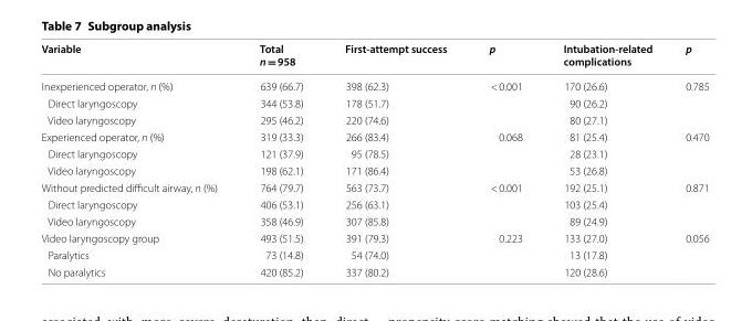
<table><thead><tr><td>Variable</td><td>Total n = 958</td><td>First-attempt success</td><td>p</td><td>Intubation-related complications</td><td>p</td></tr></thead><tbody><tr><td>Inexperienced operator, n (%)</td><td>639 (66.7)</td><td>398 (62.3)</td><td>&lt; 0.001</td><td>170 (26.6)</td><td>0.785</td></tr><tr><td>Direct laryngoscopy</td><td>344 (53.8)</td><td>178 (51.7)</td><td></td><td>90 (26.2)</td><td></td></tr><tr><td>Video laryngoscopy</td><td>295 (46.2)</td><td>220 (74.6)</td><td></td><td>80 (27.1)</td><td></td></tr><tr><td>Experienced operator, n (%)</td><td>319 (33.3)</td><td>266 (83.4)</td><td>0.068</td><td>81 (25.4)</td><td>0.470</td></tr><tr><td>Direct laryngoscopy</td><td>121 (37.9)</td><td>95 (78.5)</td><td></td><td>28 (23.1)</td><td></td></tr><tr><td>Video laryngoscopy</td><td>198 (62.1)</td><td>171 (86.4)</td><td></td><td>53 (26.8)</td><td></td></tr><tr><td>Without predicted difficult airway, n (%)</td><td>764 (79.7)</td><td>563 (73.7)</td><td>&lt; 0.001</td><td>192 (25.1)</td><td>0.871</td></tr><tr><td>Direct laryngoscopy</td><td>406 (53.1)</td><td>256 (63.1)</td><td></td><td>103 (25.4)</td><td></td></tr><tr><td>Video laryngoscopy</td><td>358 (46.9)</td><td>307 (85.8)</td><td></td><td>89 (24.9)</td><td></td></tr><tr><td>Video laryngoscopy group</td><td>493 (51.5)</td><td>391 (79.3)</td><td>0.223</td><td>133 (27.0)</td><td>0.056</td></tr><tr><td>Paralytics</td><td>73 (14.8)</td><td>54 (74.0)</td><td></td><td>13 (17.8)</td><td></td></tr><tr><td>No paralytics</td><td>420 (85.2)</td><td>337 (80.2)</td><td></td><td>120 (28.6)</td><td></td></tr></tbody></table>